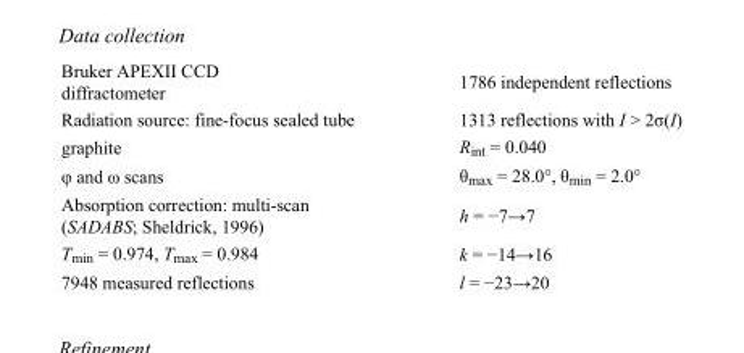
<table><tbody><tr><td>Bruker APEXII CCD diffractometer</td><td>1786 independent reflections</td></tr><tr><td>Radiation source: fine-focus sealed tube</td><td>1313 reflections with I &gt; 2σ(I)</td></tr><tr><td>graphite</td><td>R<sub>int</sub> = 0.040</td></tr><tr><td>φ and ω scans</td><td>θ<sub>max</sub> = 28.0°, θ<sub>min</sub> = 2.0°</td></tr><tr><td>Absorption correction: multi-scan (SADABS; Sheldrick, 1996)</td><td>h = −7→7</td></tr><tr><td>T<sub>min</sub> = 0.974, T<sub>max</sub> = 0.984</td><td>k = −14→16</td></tr><tr><td>7948 measured reflections</td><td>l = −23→20</td></tr></tbody></table>